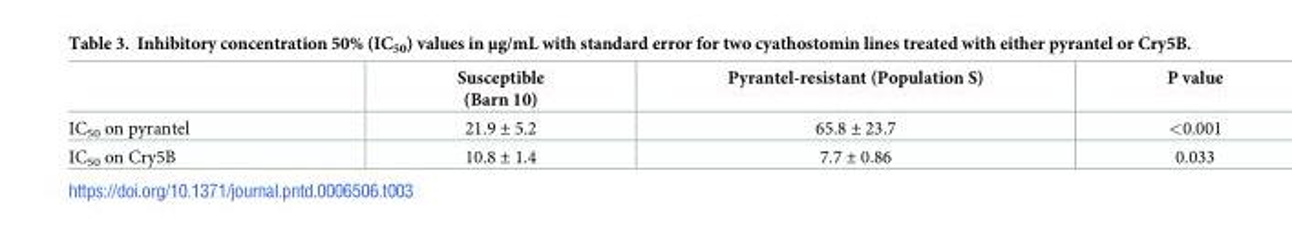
<table><thead><tr><td></td><td>Susceptible (Barn 10)</td><td>Pyrantel-resistant (Population S)</td><td>P value</td></tr></thead><tbody><tr><td>IC<sub>50</sub> on pyrantel</td><td>21.9 ± 5.2</td><td>65.8 ± 23.7</td><td>&lt;0.001</td></tr><tr><td>IC<sub>50</sub> on Cry5B</td><td>10.8 ± 1.4</td><td>7.7 ± 0.86</td><td>0.033</td></tr></tbody></table>